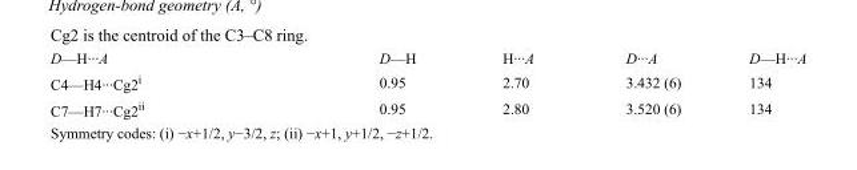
<table><tbody><tr><td>D—H···A</td><td>D—H</td><td>H···A</td><td>D···A</td><td>D—H···A</td></tr><tr><td>C4—H4···Cg2<sup>i</sup></td><td>0.95</td><td>2.70</td><td>3.432 (6)</td><td>134</td></tr><tr><td>C7—H7···Cg2<sup>ii</sup></td><td>0.95</td><td>2.80</td><td>3.520 (6)</td><td>134</td></tr></tbody></table>